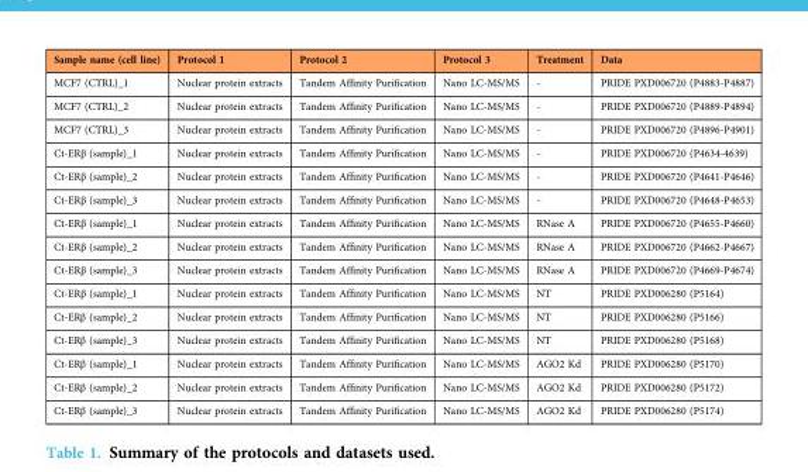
<table><thead><tr><td>Sample name (cell line)</td><td>Protocol 1</td><td>Protocol 2</td><td>Protocol 3</td><td>Treatment</td><td>Data</td></tr></thead><tbody><tr><td>MCF7 (CTRL)_1</td><td>Nuclear protein extracts</td><td>Tandem Affinity Purification</td><td>Nano LC-MS/MS</td><td>-</td><td>PRIDE PXD006720 (P4883-P4887)</td></tr><tr><td>MCF7 (CTRL)_2</td><td>Nuclear protein extracts</td><td>Tandem Affinity Purification</td><td>Nano LC-MS/MS</td><td>-</td><td>PRIDE PXD006720 (P4889-P4894)</td></tr><tr><td>MCF7 (CTRL)_3</td><td>Nuclear protein extracts</td><td>Tandem Affinity Purification</td><td>Nano LC-MS/MS</td><td>-</td><td>PRIDE PXD006720 (P4896-P4901)</td></tr><tr><td>Ct-ERβ (sample)_1</td><td>Nuclear protein extracts</td><td>Tandem Affinity Purification</td><td>Nano LC-MS/MS</td><td>-</td><td>PRIDE PXD006720 (P4634-4639)</td></tr><tr><td>Ct-ERβ (sample)_2</td><td>Nuclear protein extracts</td><td>Tandem Affinity Purification</td><td>Nano LC-MS/MS</td><td>-</td><td>PRIDE PXD006720 (P4641-P4646)</td></tr><tr><td>Ct-ERβ (sample)_3</td><td>Nuclear protein extracts</td><td>Tandem Affinity Purification</td><td>Nano LC-MS/MS</td><td>-</td><td>PRIDE PXD006720 (P4648-P4653)</td></tr><tr><td>Ct-ERβ (sample)_1</td><td>Nuclear protein extracts</td><td>Tandem Affinity Purification</td><td>Nano LC-MS/MS</td><td>RNase A</td><td>PRIDE PXD006720 (P4655-P4660)</td></tr><tr><td>Ct-ERβ (sample)_2</td><td>Nuclear protein extracts</td><td>Tandem Affinity Purification</td><td>Nano LC-MS/MS</td><td>RNase A</td><td>PRIDE PXD006720 (P4662-P4667)</td></tr><tr><td>Ct-ERβ (sample)_3</td><td>Nuclear protein extracts</td><td>Tandem Affinity Purification</td><td>Nano LC-MS/MS</td><td>RNase A</td><td>PRIDE PXD006720 (P4669-P4674)</td></tr><tr><td>Ct-ERβ (sample)_1</td><td>Nuclear protein extracts</td><td>Tandem Affinity Purification</td><td>Nano LC-MS/MS</td><td>NT</td><td>PRIDE PXD006280 (P5164)</td></tr><tr><td>Ct-ERβ (sample)_2</td><td>Nuclear protein extracts</td><td>Tandem Affinity Purification</td><td>Nano LC-MS/MS</td><td>NT</td><td>PRIDE PXD006280 (P5166)</td></tr><tr><td>Ct-ERβ (sample)_3</td><td>Nuclear protein extracts</td><td>Tandem Affinity Purification</td><td>Nano LC-MS/MS</td><td>NT</td><td>PRIDE PXD006280 (P5168)</td></tr><tr><td>Ct-ERβ (sample)_1</td><td>Nuclear protein extracts</td><td>Tandem Affinity Purification</td><td>Nano LC-MS/MS</td><td>AGO2 Kd</td><td>PRIDE PXD006280 (P5170)</td></tr><tr><td>Ct-ERβ (sample)_2</td><td>Nuclear protein extracts</td><td>Tandem Affinity Purification</td><td>Nano LC-MS/MS</td><td>AGO2 Kd</td><td>PRIDE PXD006280 (P5172)</td></tr><tr><td>Ct-ERβ (sample)_3</td><td>Nuclear protein extracts</td><td>Tandem Affinity Purification</td><td>Nano LC-MS/MS</td><td>AGO2 Kd</td><td>PRIDE PXD006280 (P5174)</td></tr></tbody></table>